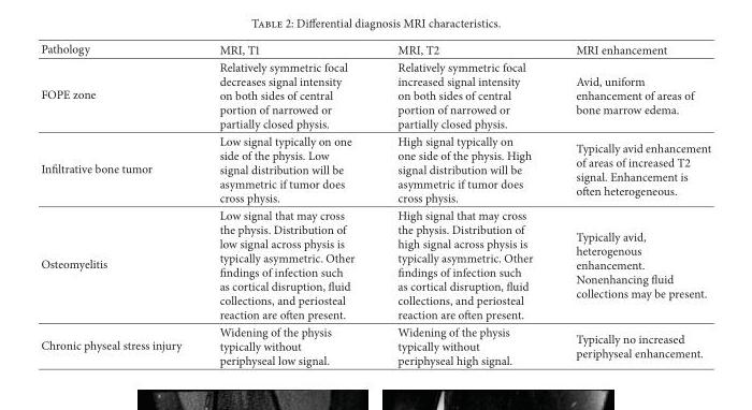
<table><thead><tr><td>Pathology</td><td>MRI, T1</td><td>MRI, T2</td><td>MRI enhancement</td></tr></thead><tbody><tr><td>FOPE zone</td><td>Relatively symmetric focal decreases signal intensity on both sides of central portion of narrowed or partially closed physis.</td><td>Relatively symmetric focal increased signal intensity on both sides of central portion of narrowed or partially closed physis.</td><td>Avid, uniform enhancement of areas of bone marrow edema.</td></tr><tr><td>Infiltrative bone tumor</td><td>Low signal typically on one side of the physis. Low signal distribution will be asymmetric if tumor does cross physis.</td><td>High signal typically on one side of the physis. High signal distribution will be asymmetric if tumor does cross physis.</td><td>Typically avid enhancement of areas of increased T2 signal. Enhancement is often heterogeneous.</td></tr><tr><td>Osteomyelitis</td><td>Low signal that may cross the physis. Distribution of low signal across physis is typically asymmetric. Other findings of infection such as cortical disruption, fluid collections, and periosteal reaction are often present.</td><td>High signal that may cross the physis. Distribution of high signal across physis is typically asymmetric. Other findings of infection such as cortical disruption, fluid collections, and periosteal reaction are often present.</td><td>Typically avid, heterogenous enhancement. Nonenhancing fluid collections may be present.</td></tr><tr><td>Chronic physeal stress injury</td><td>Widening of the physis typically without periphyseal low signal.</td><td>Widening of the physis typically without periphyseal high signal.</td><td>Typically no increased periphyseal enhancement.</td></tr></tbody></table>